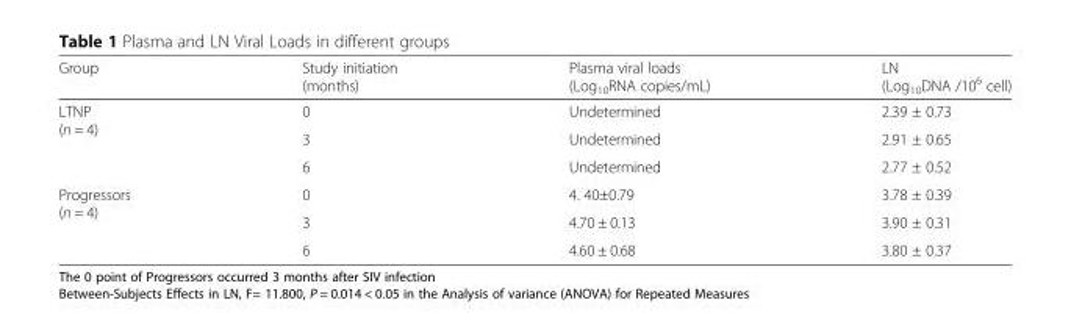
<table><thead><tr><td>Group</td><td>Study initiation (months)</td><td>Plasma viral loads (Log<sub>10</sub>RNA copies/mL)</td><td>LN (Log<sub>10</sub>DNA /10<sup>6</sup> cell)</td></tr></thead><tbody><tr><td rowspan="3">LTNP (n = 4)</td><td>0</td><td>Undetermined</td><td>2.39 ± 0.73</td></tr><tr><td>3</td><td>Undetermined</td><td>2.91 ± 0.65</td></tr><tr><td>6</td><td>Undetermined</td><td>2.77 ± 0.52</td></tr><tr><td rowspan="3">Progressors (n = 4)</td><td>0</td><td>4. 40±0.79</td><td>3.78 ± 0.39</td></tr><tr><td>3</td><td>4.70 ± 0.13</td><td>3.90 ± 0.31</td></tr><tr><td>6</td><td>4.60 ± 0.68</td><td>3.80 ± 0.37</td></tr></tbody></table>